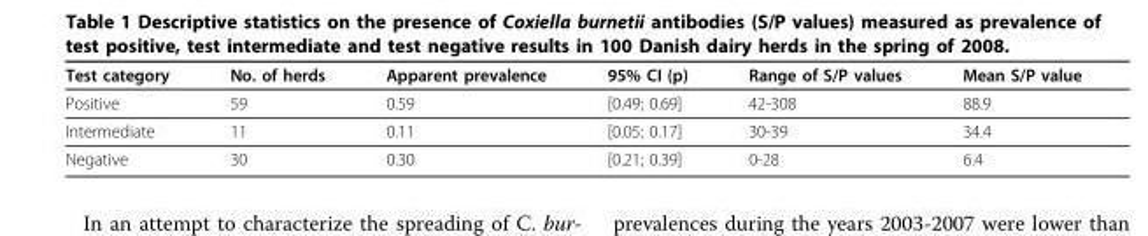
<table><thead><tr><td>Test category</td><td>No. of herds</td><td>Apparent prevalence</td><td>95% CI (p)</td><td>Range of S/P values</td><td>Mean S/P value</td></tr></thead><tbody><tr><td>Positive</td><td>59</td><td>0.59</td><td>[0.49; 0.69]</td><td>42-308</td><td>88.9</td></tr><tr><td>Intermediate</td><td>11</td><td>0.11</td><td>[0.05; 0.17]</td><td>30-39</td><td>34.4</td></tr><tr><td>Negative</td><td>30</td><td>0.30</td><td>[0.21; 0.39]</td><td>0-28</td><td>6.4</td></tr></tbody></table>